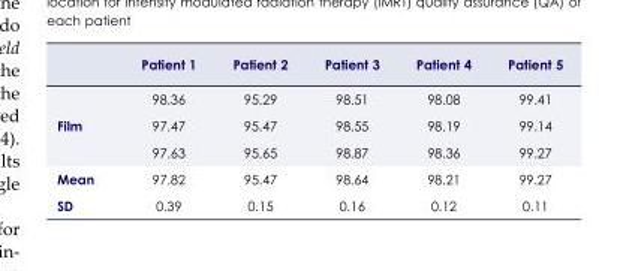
<table><thead><tr><td></td><td>Patient 1</td><td>Patient 2</td><td>Patient 3</td><td>Patient 4</td><td>Patient 5</td></tr></thead><tbody><tr><td rowspan="3">Film</td><td>98.36</td><td>95.29</td><td>98.51</td><td>98.08</td><td>99.41</td></tr><tr><td>97.47</td><td>95.47</td><td>98.55</td><td>98.19</td><td>99.14</td></tr><tr><td>97.63</td><td>95.65</td><td>98.87</td><td>98.36</td><td>99.27</td></tr><tr><td>Mean</td><td>97.82</td><td>95.47</td><td>98.64</td><td>98.21</td><td>99.27</td></tr><tr><td>SD</td><td>0.39</td><td>0.15</td><td>0.16</td><td>0.12</td><td>0.11</td></tr></tbody></table>